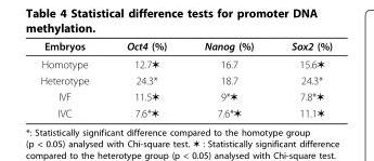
<table><thead><tr><td>Embryos</td><td>Oct4 (%)</td><td>Nanog (%)</td><td>Sox2 (%)</td></tr></thead><tbody><tr><td>Homotype</td><td>12.7✶</td><td>16.7</td><td>15.6✶</td></tr><tr><td>Heterotype</td><td>24.3*</td><td>18.7</td><td>24.3*</td></tr><tr><td>IVF</td><td>11.5✶</td><td>9*✶</td><td>7.8*✶</td></tr><tr><td>IVC</td><td>7.6*✶</td><td>7.6*✶</td><td>11.1✶</td></tr></tbody></table>